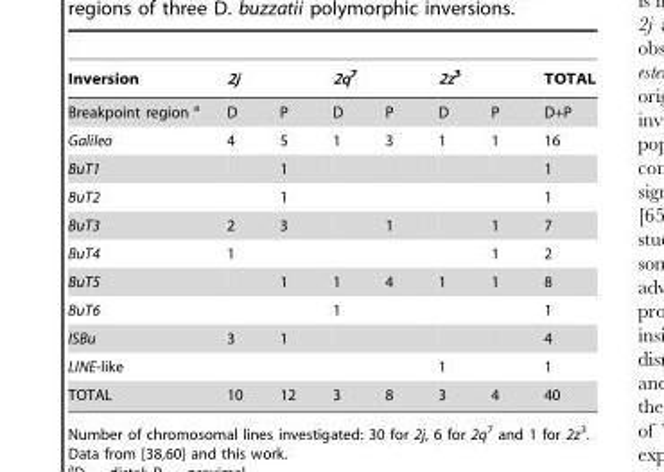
<table><thead><tr><td rowspan="2">Inversion Breakpoint region a</td><td colspan="2">2j</td><td colspan="2">2q<sup>7</sup></td><td colspan="2">2z<sup>3</sup></td><td rowspan="2">TOTAL D+P</td></tr><tr><td>D</td><td>P</td><td>D</td><td>P</td><td>D</td><td>P</td></tr></thead><tbody><tr><td>Galileo</td><td>4</td><td>5</td><td>1</td><td>3</td><td>1</td><td>1</td><td>16</td></tr><tr><td>BuT1</td><td></td><td>1</td><td></td><td></td><td></td><td></td><td>1</td></tr><tr><td>BuT2</td><td></td><td>1</td><td></td><td></td><td></td><td></td><td>1</td></tr><tr><td>BuT3</td><td>2</td><td>3</td><td></td><td>1</td><td></td><td>1</td><td>7</td></tr><tr><td>BuT4</td><td>1</td><td></td><td></td><td></td><td></td><td>1</td><td>2</td></tr><tr><td>BuT5</td><td></td><td>1</td><td>1</td><td>4</td><td>1</td><td>1</td><td>8</td></tr><tr><td>BuT6</td><td></td><td></td><td>1</td><td></td><td></td><td></td><td>1</td></tr><tr><td>ISBu</td><td>3</td><td>1</td><td></td><td></td><td></td><td></td><td>4</td></tr><tr><td>LINE-like</td><td></td><td></td><td></td><td></td><td>1</td><td></td><td>1</td></tr><tr><td>TOTAL</td><td>10</td><td>12</td><td>3</td><td>8</td><td>3</td><td>4</td><td>40</td></tr></tbody></table>